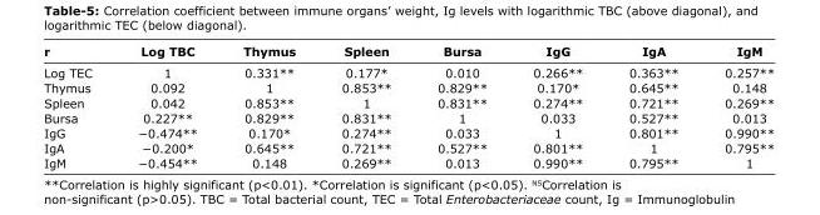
<table><thead><tr><td>r</td><td>Log TBC</td><td>Thymus</td><td>Spleen</td><td>Bursa</td><td>IgG</td><td>IgA</td><td>IgM</td></tr></thead><tbody><tr><td>Log TEC</td><td>1</td><td>0.331**</td><td>0.177*</td><td>0.010</td><td>0.266**</td><td>0.363**</td><td>0.257**</td></tr><tr><td>Thymus</td><td>0.092</td><td>1</td><td>0.853**</td><td>0.829**</td><td>0.170*</td><td>0.645**</td><td>0.148</td></tr><tr><td>Spleen</td><td>0.042</td><td>0.853**</td><td>1</td><td>0.831**</td><td>0.274**</td><td>0.721**</td><td>0.269**</td></tr><tr><td>Bursa</td><td>0.227**</td><td>0.829**</td><td>0.831**</td><td>1</td><td>0.033</td><td>0.527**</td><td>0.013</td></tr><tr><td>IgG</td><td>−0.474**</td><td>0.170*</td><td>0.274**</td><td>0.033</td><td>1</td><td>0.801**</td><td>0.990**</td></tr><tr><td>IgA</td><td>−0.200*</td><td>0.645**</td><td>0.721**</td><td>0.527**</td><td>0.801**</td><td>1</td><td>0.795**</td></tr><tr><td>IgM</td><td>−0.454**</td><td>0.148</td><td>0.269**</td><td>0.013</td><td>0.990**</td><td>0.795**</td><td>1</td></tr></tbody></table>